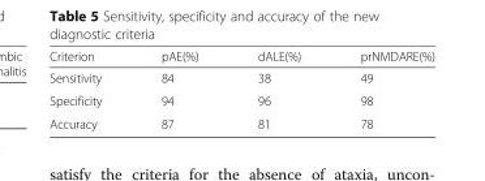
<table><thead><tr><td>Criterion</td><td>pAE(%)</td><td>dALE(%)</td><td>prNMDARE(%)</td></tr></thead><tbody><tr><td>Sensitivity</td><td>84</td><td>38</td><td>49</td></tr><tr><td>Specificity</td><td>94</td><td>96</td><td>98</td></tr><tr><td>Accuracy</td><td>87</td><td>81</td><td>78</td></tr></tbody></table>